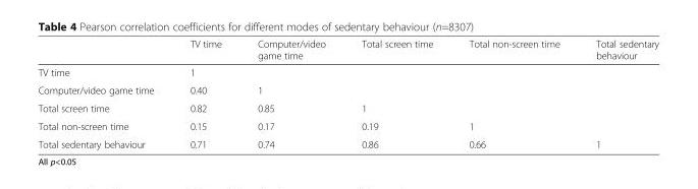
<table><thead><tr><td></td><td>TV time</td><td>Computer/video game time</td><td>Total screen time</td><td>Total non-screen time</td><td>Total sedentary behaviour</td></tr></thead><tbody><tr><td>TV time</td><td>1</td><td></td><td></td><td></td><td></td></tr><tr><td>Computer/video game time</td><td>0.40</td><td>1</td><td></td><td></td><td></td></tr><tr><td>Total screen time</td><td>0.82</td><td>0.85</td><td>1</td><td></td><td></td></tr><tr><td>Total non-screen time</td><td>0.15</td><td>0.17</td><td>0.19</td><td>1</td><td></td></tr><tr><td>Total sedentary behaviour</td><td>0.71</td><td>0.74</td><td>0.86</td><td>0.66</td><td>1</td></tr></tbody></table>